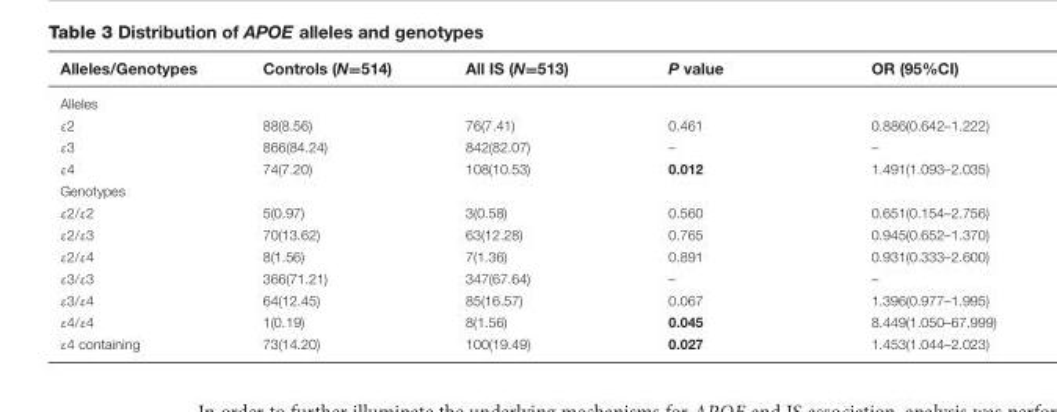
<table><thead><tr><td>Alleles/Genotypes</td><td>Controls (N=514)</td><td>All IS (N=513)</td><td>P value</td><td>OR (95%CI)</td></tr></thead><tbody><tr><td colspan="5">Alleles</td></tr><tr><td>ε2</td><td>88(8.56)</td><td>76(7.41)</td><td>0.461</td><td>0.886(0.642–1.222)</td></tr><tr><td>ε3</td><td>866(84.24)</td><td>842(82.07)</td><td>–</td><td>–</td></tr><tr><td>ε4</td><td>74(7.20)</td><td>108(10.53)</td><td>0.012</td><td>1.491(1.093–2.035)</td></tr><tr><td colspan="5">Genotypes</td></tr><tr><td>ε2/ε2</td><td>5(0.97)</td><td>3(0.58)</td><td>0.560</td><td>0.651(0.154–2.756)</td></tr><tr><td>ε2/ε3</td><td>70(13.62)</td><td>63(12.28)</td><td>0.765</td><td>0.945(0.652–1.370)</td></tr><tr><td>ε2/ε4</td><td>8(1.56)</td><td>7(1.36)</td><td>0.891</td><td>0.931(0.333–2.600)</td></tr><tr><td>ε3/ε3</td><td>366(71.21)</td><td>347(67.64)</td><td>–</td><td>–</td></tr><tr><td>ε3/ε4</td><td>64(12.45)</td><td>85(16.57)</td><td>0.067</td><td>1.396(0.977–1.995)</td></tr><tr><td>ε4/ε4</td><td>1(0.19)</td><td>8(1.56)</td><td>0.045</td><td>8.449(1.050–67.999)</td></tr><tr><td>ε4 containing</td><td>73(14.20)</td><td>100(19.49)</td><td>0.027</td><td>1.453(1.044–2.023)</td></tr></tbody></table>